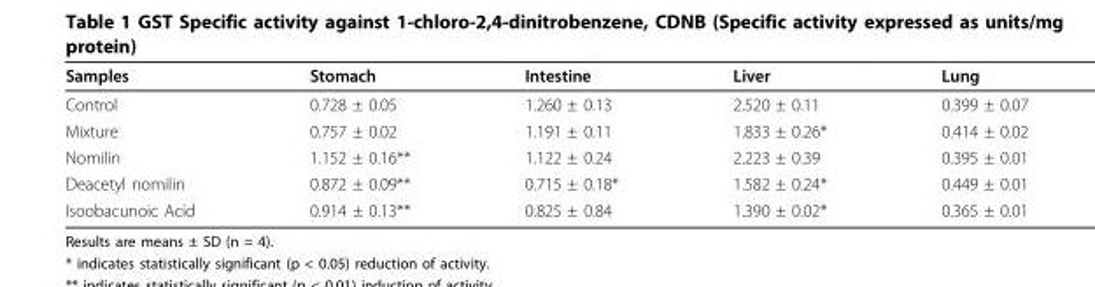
<table><thead><tr><td>Samples</td><td>Stomach</td><td>Intestine</td><td>Liver</td><td>Lung</td></tr></thead><tbody><tr><td>Control</td><td>0.728 ± 0.05</td><td>1.260 ± 0.13</td><td>2.520 ± 0.11</td><td>0.399 ± 0.07</td></tr><tr><td>Mixture</td><td>0.757 ± 0.02</td><td>1.191 ± 0.11</td><td>1.833 ± 0.26*</td><td>0.414 ± 0.02</td></tr><tr><td>Nomilin</td><td>1.152 ± 0.16**</td><td>1.122 ± 0.24</td><td>2.223 ± 0.39</td><td>0.395 ± 0.01</td></tr><tr><td>Deacetyl nomilin</td><td>0.872 ± 0.09**</td><td>0.715 ± 0.18*</td><td>1.582 ± 0.24*</td><td>0.449 ± 0.01</td></tr><tr><td>Isoobacunoic Acid</td><td>0.914 ± 0.13**</td><td>0.825 ± 0.84</td><td>1.390 ± 0.02*</td><td>0.365 ± 0.01</td></tr></tbody></table>